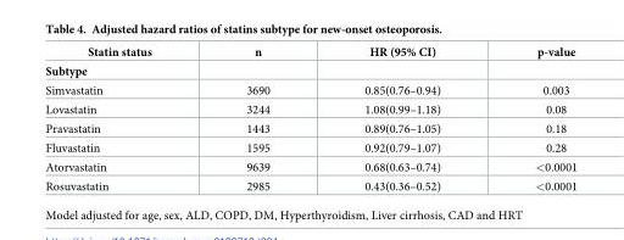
<table><thead><tr><td rowspan="2">Statin status Subtype</td><td rowspan="2">n</td><td rowspan="2">HR (95% CI)</td><td rowspan="2">p-value</td></tr><tr></tr></thead><tbody><tr><td>Simvastatin</td><td>3690</td><td>0.85(0.76–0.94)</td><td>0.003</td></tr><tr><td>Lovastatin</td><td>3244</td><td>1.08(0.99–1.18)</td><td>0.08</td></tr><tr><td>Pravastatin</td><td>1443</td><td>0.89(0.76–1.05)</td><td>0.18</td></tr><tr><td>Fluvastatin</td><td>1595</td><td>0.92(0.79–1.07)</td><td>0.28</td></tr><tr><td>Atorvastatin</td><td>9639</td><td>0.68(0.63–0.74)</td><td>&lt;0.0001</td></tr><tr><td>Rosuvastatin</td><td>2985</td><td>0.43(0.36–0.52)</td><td>&lt;0.0001</td></tr></tbody></table>